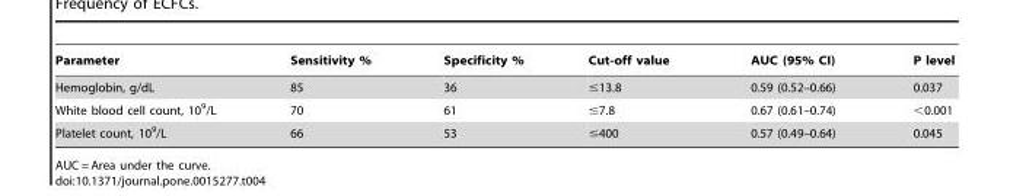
<table><thead><tr><td>Parameter</td><td>Sensitivity %</td><td>Specificity %</td><td>Cut-off value</td><td>AUC (95% CI)</td><td>P level</td></tr></thead><tbody><tr><td>Hemoglobin, g/dL</td><td>85</td><td>36</td><td>≤13.8</td><td>0.59 (0.52–0.66)</td><td>0.037</td></tr><tr><td>White blood cell count, 10<sup>9</sup>/L</td><td>70</td><td>61</td><td>≤7.8</td><td>0.67 (0.61–0.74)</td><td>&lt;0.001</td></tr><tr><td>Platelet count, 10<sup>9</sup>/L</td><td>66</td><td>53</td><td>≤400</td><td>0.57 (0.49–0.64)</td><td>0.045</td></tr></tbody></table>